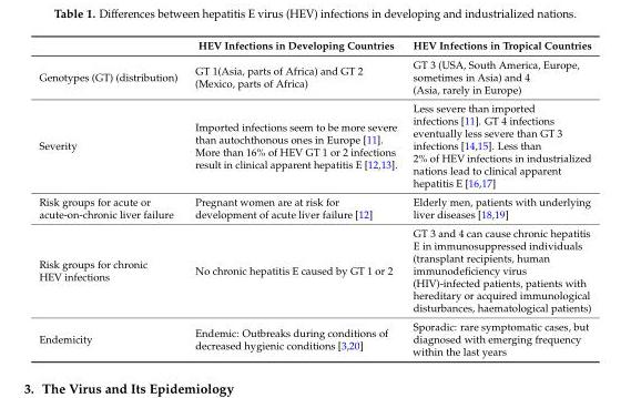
<table><thead><tr><td></td><td>HEV Infections in Developing Countries</td><td>HEV Infections in Tropical Countries</td></tr></thead><tbody><tr><td>Genotypes (GT) (distribution)</td><td>GT 1(Asia, parts of Africa) and GT 2 (Mexico, parts of Africa)</td><td>GT 3 (USA, South America, Europe, sometimes in Asia) and 4 (Asia, rarely in Europe)</td></tr><tr><td>Severity</td><td>Imported infections seem to be more severe than autochthonous ones in Europe [11]. More than 16% of HEV GT 1 or 2 infections result in clinical apparent hepatitis E [12,13].</td><td>Less severe than imported infections [11]. GT 4 infections eventually less severe than GT 3 infections [14,15]. Less than 2% of HEV infections in industrialized nations lead to clinical apparent hepatitis E [16,17]</td></tr><tr><td>Risk groups for acute or acute-on-chronic liver failure</td><td>Pregnant women are at risk for development of acute liver failure [12]</td><td>Elderly men, patients with underlying liver diseases [18,19]</td></tr><tr><td>Risk groups for chronic HEV infections</td><td>No chronic hepatitis E caused by GT 1 or 2</td><td>GT 3 and 4 can cause chronic hepatitis E in immunosuppressed individuals (transplant recipients, human immunodeficiency virus (HIV)-infected patients, patients with hereditary or acquired immunological disturbances, haematological patients)</td></tr><tr><td>Endemicity</td><td>Endemic: Outbreaks during conditions of decreased hygienic conditions [3,20]</td><td>Sporadic: rare symptomatic cases, but diagnosed with emerging frequency within the last years</td></tr></tbody></table>